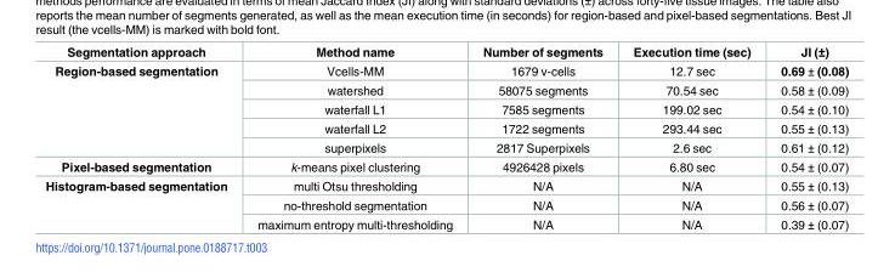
<table><thead><tr><td>Segmentation approach</td><td>Method name</td><td>Number of segments</td><td>Execution time (sec)</td><td>JI (±)</td></tr></thead><tbody><tr><td rowspan="5">Region-based segmentation</td><td>Vcells-MM</td><td>1679 v-cells</td><td>12.7 sec</td><td>0.69 ± (0.08)</td></tr><tr><td>watershed</td><td>58075 segments</td><td>70.54 sec</td><td>0.58 ± (0.09)</td></tr><tr><td>waterfall L1</td><td>7585 segments</td><td>199.02 sec</td><td>0.54 ± (0.10)</td></tr><tr><td>waterfall L2</td><td>1722 segments</td><td>293.44 sec</td><td>0.55 ± (0.13)</td></tr><tr><td>superpixels</td><td>2817 Superpixels</td><td>2.6 sec</td><td>0.61 ± (0.12)</td></tr><tr><td>Pixel-based segmentation</td><td>k-means pixel clustering</td><td>4926428 pixels</td><td>6.80 sec</td><td>0.54 ± (0.07)</td></tr><tr><td rowspan="3">Histogram-based segmentation</td><td>multi Otsu thresholding</td><td>N/A</td><td>N/A</td><td>0.55 ± (0.13)</td></tr><tr><td>no-threshold segmentation</td><td>N/A</td><td>N/A</td><td>0.56 ± (0.07)</td></tr><tr><td>maximum entropy multi-thresholding</td><td>N/A</td><td>N/A</td><td>0.39 ± (0.07)</td></tr></tbody></table>